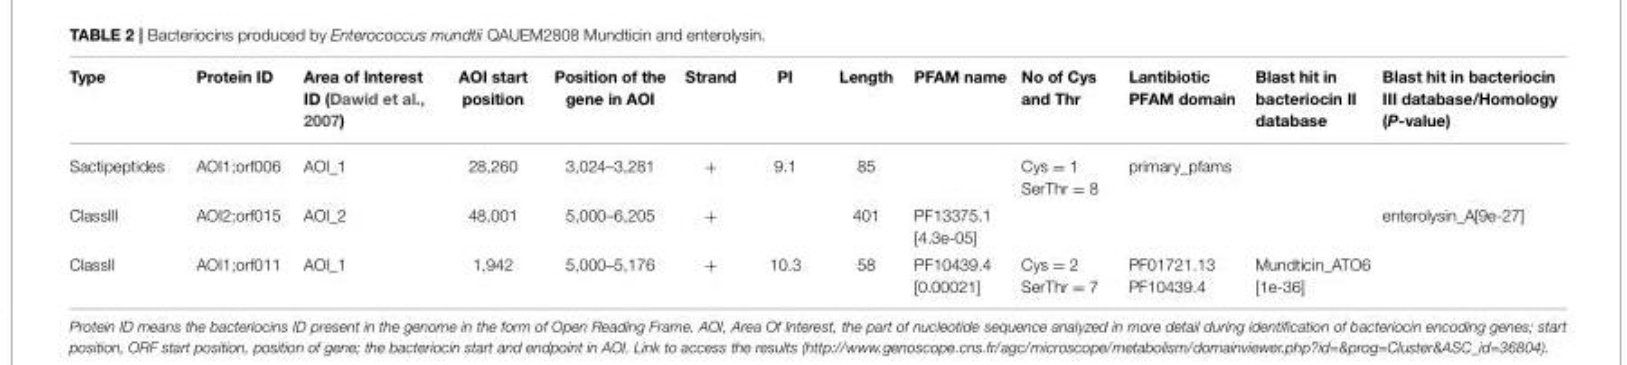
<table><thead><tr><td>Type</td><td>Protein ID</td><td>Area of Interest ID (Dawid et al., 2007)</td><td>AOI start position</td><td>Position of the gene in AOI</td><td>Strand</td><td>PI</td><td>Length</td><td>PFAM name</td><td>No of Cys and Thr</td><td>Lantibiotic PFAM domain</td><td>Blast hit in bacteriocin II database</td><td>Blast hit in bacteriocin III database/Homology (P-value)</td></tr></thead><tbody><tr><td>Sactipeptides</td><td>AOI1;orf006</td><td>AOI_1</td><td>28,260</td><td>3,024–3,281</td><td>+</td><td>9.1</td><td>85</td><td></td><td>Cys = 1 SerThr = 8</td><td>primary_pfams</td><td></td><td></td></tr><tr><td>ClassIII</td><td>AOI2;orf015</td><td>AOI_2</td><td>48,001</td><td>5,000–6,205</td><td>+</td><td></td><td>401</td><td>PF13375.1 [4.3e-05]</td><td></td><td></td><td></td><td>enterolysin_A[9e-27]</td></tr><tr><td>ClassII</td><td>AOI1;orf011</td><td>AOI_1</td><td>1,942</td><td>5,000–5,176</td><td>+</td><td>10.3</td><td>58</td><td>PF10439.4 [0.00021]</td><td>Cys = 2 SerThr = 7</td><td>PF01721.13 PF10439.4</td><td>Mundticin_ATO6 [1e-36]</td><td></td></tr></tbody></table>